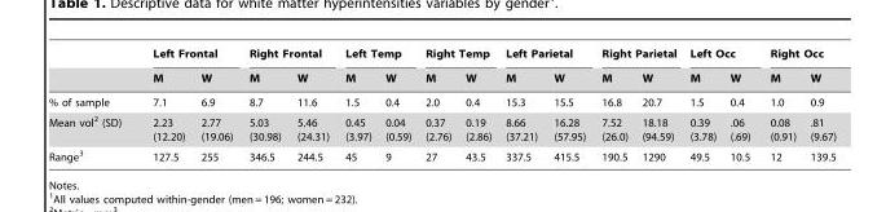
<table><thead><tr><td rowspan="2"></td><td colspan="2">Left Frontal</td><td colspan="2">Right Frontal</td><td colspan="2">Left Temp</td><td colspan="2">Right Temp</td><td colspan="2">Left Parietal</td><td colspan="2">Right Parietal</td><td colspan="2">Left Occ</td><td colspan="2">Right Occ</td></tr><tr><td>M</td><td>W</td><td>M</td><td>W</td><td>M</td><td>W</td><td>M</td><td>W</td><td>M</td><td>W</td><td>M</td><td>W</td><td>M</td><td>W</td><td>M</td><td>W</td></tr></thead><tbody><tr><td>% of sample</td><td>7.1</td><td>6.9</td><td>8.7</td><td>11.6</td><td>1.5</td><td>0.4</td><td>2.0</td><td>0.4</td><td>15.3</td><td>15.5</td><td>16.8</td><td>20.7</td><td>1.5</td><td>0.4</td><td>1.0</td><td>0.9</td></tr><tr><td>Mean vol<sup>2</sup> (SD)</td><td>2.23 (12.20)</td><td>2.77 (19.06)</td><td>5.03 (30.98)</td><td>5.46 (24.31)</td><td>0.45 (3.97)</td><td>0.04 (0.59)</td><td>0.37 (2.76)</td><td>0.19 (2.86)</td><td>8.66 (37.21)</td><td>16.28 (57.95)</td><td>7.52 (26.0)</td><td>18.18 (94.59)</td><td>0.39 (3.78)</td><td>.06 (.69)</td><td>0.08 (0.91)</td><td>.81 (9.67)</td></tr><tr><td>Range<sup>3</sup></td><td>127.5</td><td>255</td><td>346.5</td><td>244.5</td><td>45</td><td>9</td><td>27</td><td>43.5</td><td>337.5</td><td>415.5</td><td>190.5</td><td>1290</td><td>49.5</td><td>10.5</td><td>12</td><td>139.5</td></tr></tbody></table>